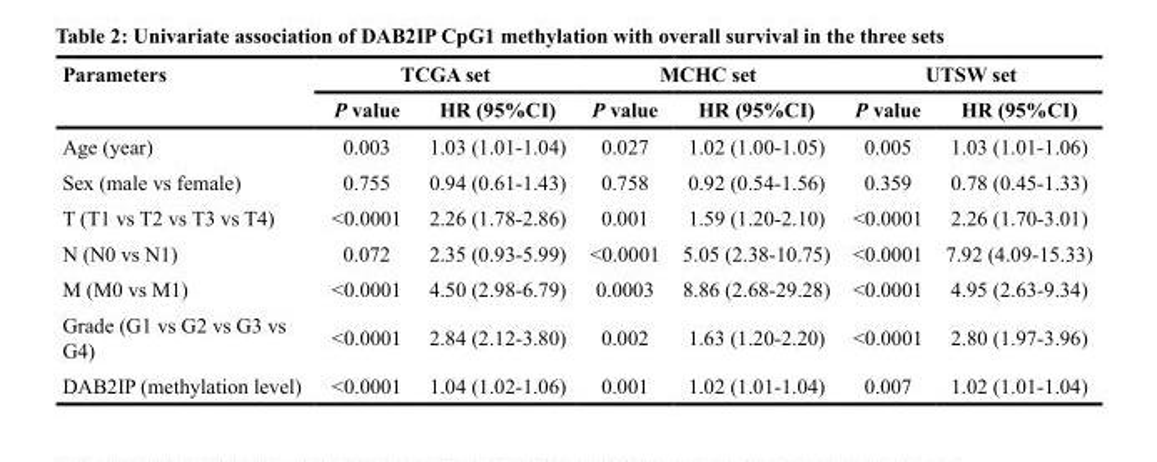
<table><thead><tr><td rowspan="2">Parameters</td><td colspan="2">TCGA set</td><td colspan="2">MCHC set</td><td colspan="2">UTSW set</td></tr><tr><td>P value</td><td>HR (95%CI)</td><td>P value</td><td>HR (95%CI)</td><td>P value</td><td>HR (95%CI)</td></tr></thead><tbody><tr><td>Age (year)</td><td>0.003</td><td>1.03 (1.01-1.04)</td><td>0.027</td><td>1.02 (1.00-1.05)</td><td>0.005</td><td>1.03 (1.01-1.06)</td></tr><tr><td>Sex (male vs female)</td><td>0.755</td><td>0.94 (0.61-1.43)</td><td>0.758</td><td>0.92 (0.54-1.56)</td><td>0.359</td><td>0.78 (0.45-1.33)</td></tr><tr><td>T (T1 vs T2 vs T3 vs T4)</td><td>&lt;0.0001</td><td>2.26 (1.78-2.86)</td><td>0.001</td><td>1.59 (1.20-2.10)</td><td>&lt;0.0001</td><td>2.26 (1.70-3.01)</td></tr><tr><td>N (N0 vs N1)</td><td>0.072</td><td>2.35 (0.93-5.99)</td><td>&lt;0.0001</td><td>5.05 (2.38-10.75)</td><td>&lt;0.0001</td><td>7.92 (4.09-15.33)</td></tr><tr><td>M (M0 vs M1)</td><td>&lt;0.0001</td><td>4.50 (2.98-6.79)</td><td>0.0003</td><td>8.86 (2.68-29.28)</td><td>&lt;0.0001</td><td>4.95 (2.63-9.34)</td></tr><tr><td>Grade (G1 vs G2 vs G3 vs G4)</td><td>&lt;0.0001</td><td>2.84 (2.12-3.80)</td><td>0.002</td><td>1.63 (1.20-2.20)</td><td>&lt;0.0001</td><td>2.80 (1.97-3.96)</td></tr><tr><td>DAB2IP (methylation level)</td><td>&lt;0.0001</td><td>1.04 (1.02-1.06)</td><td>0.001</td><td>1.02 (1.01-1.04)</td><td>0.007</td><td>1.02 (1.01-1.04)</td></tr></tbody></table>